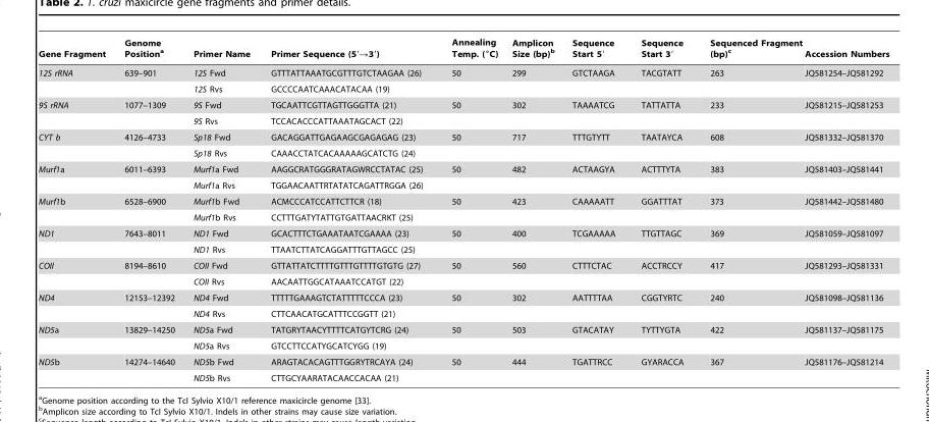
<table><thead><tr><td>Gene Fragment</td><td>Genome Position<sup>a</sup></td><td>Primer Name</td><td>Primer Sequence (5′→3′)</td><td>Annealing Temp. (°C)</td><td>Amplicon Size (bp)<sup>b</sup></td><td>Sequence Start 5′</td><td>Sequence Start 3′</td><td>Sequenced Fragment (bp)<sup>c</sup></td><td>Accession Numbers</td></tr></thead><tbody><tr><td rowspan="2">12S rRNA</td><td>639–901</td><td>12S Fwd</td><td>GTTTATTAAATGCGTTTGTCTAAGAA (26)</td><td>50</td><td>299</td><td>GTCTAAGA</td><td>TACGTATT</td><td>263</td><td>JQ581254–JQ581292</td></tr><tr><td></td><td>12S Rvs</td><td>GCCCCAATCAAACATACAA (19)</td><td></td><td></td><td></td><td></td><td></td><td></td></tr><tr><td rowspan="2">9S rRNA</td><td>1077–1309</td><td>9S Fwd</td><td>TGCAATTCGTTAGTTGGGTTA (21)</td><td>50</td><td>302</td><td>TAAAATCG</td><td>TATTATTA</td><td>233</td><td>JQ581215–JQ581253</td></tr><tr><td></td><td>9S Rvs</td><td>TCCACACCCATTAAATAGCACT (22)</td><td></td><td></td><td></td><td></td><td></td><td></td></tr><tr><td rowspan="2">CYT b</td><td>4126–4733</td><td>Sp18 Fwd</td><td>GACAGGATTGAGAAGCGAGAGAG (23)</td><td>50</td><td>717</td><td>TTTGTYTT</td><td>TAATAYCA</td><td>608</td><td>JQ581332–JQ581370</td></tr><tr><td></td><td>Sp18 Rvs</td><td>CAAACCTATCACAAAAAGCATCTG (24)</td><td></td><td></td><td></td><td></td><td></td><td></td></tr><tr><td rowspan="2">Murf1a</td><td>6011–6393</td><td>Murf1a Fwd</td><td>AAGGCRATGGGRATAGWRCCTATAC (25)</td><td>50</td><td>482</td><td>ACTAAGYA</td><td>ACTTTYTA</td><td>383</td><td>JQ581403–JQ581441</td></tr><tr><td></td><td>Murf1a Rvs</td><td>TGGAACAATTRTATATCAGATTRGGA (26)</td><td></td><td></td><td></td><td></td><td></td><td></td></tr><tr><td rowspan="2">Murf1b</td><td>6528–6900</td><td>Murf1b Fwd</td><td>ACMCCCATCCATTCTTCR (18)</td><td>50</td><td>423</td><td>CAAAAATT</td><td>GGATTTAT</td><td>373</td><td>JQ581442–JQ581480</td></tr><tr><td></td><td>Murf1b Rvs</td><td>CCTTTGATYTATTGTGATTAACRKT (25)</td><td></td><td></td><td></td><td></td><td></td><td></td></tr><tr><td rowspan="2">ND1</td><td>7643–8011</td><td>ND1 Fwd</td><td>GCACTTTCTGAAATAATCGAAAA (23)</td><td>50</td><td>400</td><td>TCGAAAAA</td><td>TTGTTAGC</td><td>369</td><td>JQ581059–JQ581097</td></tr><tr><td></td><td>ND1 Rvs</td><td>TTAATCTTATCAGGATTTGTTAGCC (25)</td><td></td><td></td><td></td><td></td><td></td><td></td></tr><tr><td rowspan="2">COII</td><td>8194–8610</td><td>COII Fwd</td><td>GTTATTATCTTTTGTTTGTTTTGTGTG (27)</td><td>50</td><td>560</td><td>CTTTCTAC</td><td>ACCTRCCY</td><td>417</td><td>JQ581293–JQ581331</td></tr><tr><td></td><td>COII Rvs</td><td>AACAATTGGCATAAATCCATGT (22)</td><td></td><td></td><td></td><td></td><td></td><td></td></tr><tr><td rowspan="2">ND4</td><td>12153–12392</td><td>ND4 Fwd</td><td>TTTTTGAAAGTCTATTTTTCCCA (23)</td><td>50</td><td>302</td><td>AATTTTAA</td><td>CGGTYRTC</td><td>240</td><td>JQ581098–JQ581136</td></tr><tr><td></td><td>ND4 Rvs</td><td>CTTCAACATGCATTTCCGGTT (21)</td><td></td><td></td><td></td><td></td><td></td><td></td></tr><tr><td rowspan="2">ND5a</td><td>13829–14250</td><td>ND5a Fwd</td><td>TATGRYTAACYTTTTCATGYTCRG (24)</td><td>50</td><td>503</td><td>GTACATAY</td><td>TYTTYGTA</td><td>422</td><td>JQ581137–JQ581175</td></tr><tr><td></td><td>ND5a Rvs</td><td>GTCCTTCCATYGCATCYGG (19)</td><td></td><td></td><td></td><td></td><td></td><td></td></tr><tr><td rowspan="2">ND5b</td><td>14274–14640</td><td>ND5b Fwd</td><td>ARAGTACACAGTTTGGRYTRCAYA (24)</td><td>50</td><td>444</td><td>TGATTRCC</td><td>GYARACCA</td><td>367</td><td>JQ581176–JQ581214</td></tr><tr><td></td><td>ND5b Rvs</td><td>CTTGCYAARATACAACCACAA (21)</td><td></td><td></td><td></td><td></td><td></td><td></td></tr></tbody></table>